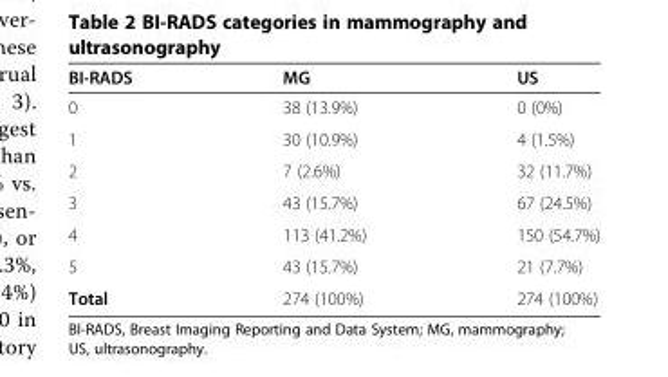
<table><thead><tr><td>BI-RADS</td><td>MG</td><td>US</td></tr></thead><tbody><tr><td>0</td><td>38 (13.9%)</td><td>0 (0%)</td></tr><tr><td>1</td><td>30 (10.9%)</td><td>4 (1.5%)</td></tr><tr><td>2</td><td>7 (2.6%)</td><td>32 (11.7%)</td></tr><tr><td>3</td><td>43 (15.7%)</td><td>67 (24.5%)</td></tr><tr><td>4</td><td>113 (41.2%)</td><td>150 (54.7%)</td></tr><tr><td>5</td><td>43 (15.7%)</td><td>21 (7.7%)</td></tr><tr><td>Total</td><td>274 (100%)</td><td>274 (100%)</td></tr></tbody></table>